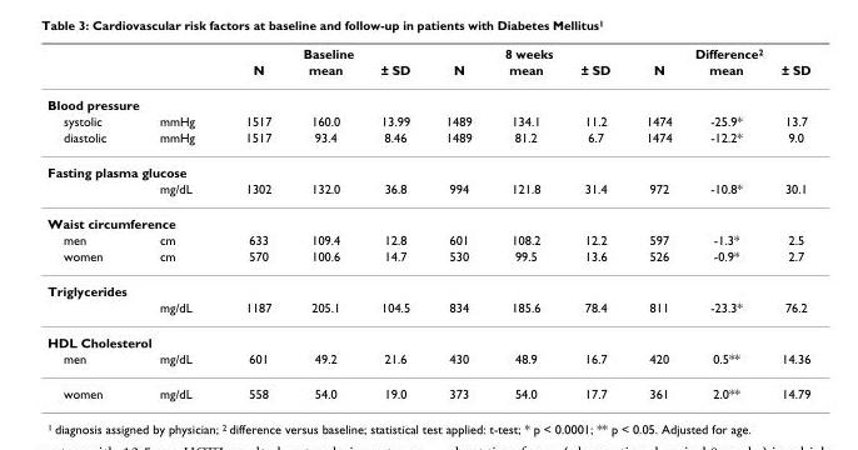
<table><thead><tr><td rowspan="2"></td><td rowspan="2"></td><td colspan="3">Baseline</td><td colspan="3">8 weeks</td><td colspan="3">Difference<sup>2</sup></td></tr><tr><td>N</td><td>mean</td><td>± SD</td><td>N</td><td>mean</td><td>± SD</td><td>N</td><td>mean</td><td>± SD</td></tr></thead><tbody><tr><td colspan="11">Blood pressure</td></tr><tr><td>systolic</td><td>mmHg</td><td>1517</td><td>160.0</td><td>13.99</td><td>1489</td><td>134.1</td><td>11.2</td><td>1474</td><td>-25.9*</td><td>13.7</td></tr><tr><td>diastolic</td><td>mmHg</td><td>1517</td><td>93.4</td><td>8.46</td><td>1489</td><td>81.2</td><td>6.7</td><td>1474</td><td>-12.2*</td><td>9.0</td></tr><tr><td colspan="11">Fasting plasma glucose</td></tr><tr><td></td><td>mg/dL</td><td>1302</td><td>132.0</td><td>36.8</td><td>994</td><td>121.8</td><td>31.4</td><td>972</td><td>-10.8*</td><td>30.1</td></tr><tr><td colspan="11">Waist circumference</td></tr><tr><td>men</td><td>cm</td><td>633</td><td>109.4</td><td>12.8</td><td>601</td><td>108.2</td><td>12.2</td><td>597</td><td>-1.3*</td><td>2.5</td></tr><tr><td>women</td><td>cm</td><td>570</td><td>100.6</td><td>14.7</td><td>530</td><td>99.5</td><td>13.6</td><td>526</td><td>-0.9*</td><td>2.7</td></tr><tr><td colspan="11">Triglycerides</td></tr><tr><td></td><td>mg/dL</td><td>1187</td><td>205.1</td><td>104.5</td><td>834</td><td>185.6</td><td>78.4</td><td>811</td><td>-23.3*</td><td>76.2</td></tr><tr><td colspan="11">HDL Cholesterol</td></tr><tr><td>men</td><td>mg/dL</td><td>601</td><td>49.2</td><td>21.6</td><td>430</td><td>48.9</td><td>16.7</td><td>420</td><td>0.5**</td><td>14.36</td></tr><tr><td>women</td><td>mg/dL</td><td>558</td><td>54.0</td><td>19.0</td><td>373</td><td>54.0</td><td>17.7</td><td>361</td><td>2.0**</td><td>14.79</td></tr></tbody></table>